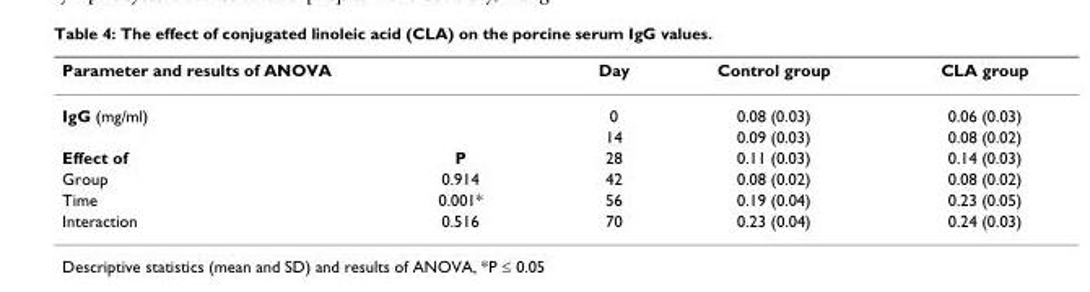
<table><thead><tr><td colspan="2">Parameter and results of ANOVA</td><td rowspan="2">Day 0</td><td rowspan="2">Control group 0.08 (0.03)</td><td rowspan="2">CLA group 0.06 (0.03)</td></tr><tr><td>IgG (mg/ml)</td><td></td></tr></thead><tbody><tr><td></td><td></td><td>14</td><td>0.09 (0.03)</td><td>0.08 (0.02)</td></tr><tr><td>Effect of</td><td>P</td><td>28</td><td>0.11 (0.03)</td><td>0.14 (0.03)</td></tr><tr><td>Group</td><td>0.914</td><td>42</td><td>0.08 (0.02)</td><td>0.08 (0.02)</td></tr><tr><td>Time</td><td>0.001*</td><td>56</td><td>0.19 (0.04)</td><td>0.23 (0.05)</td></tr><tr><td>Interaction</td><td>0.516</td><td>70</td><td>0.23 (0.04)</td><td>0.24 (0.03)</td></tr></tbody></table>